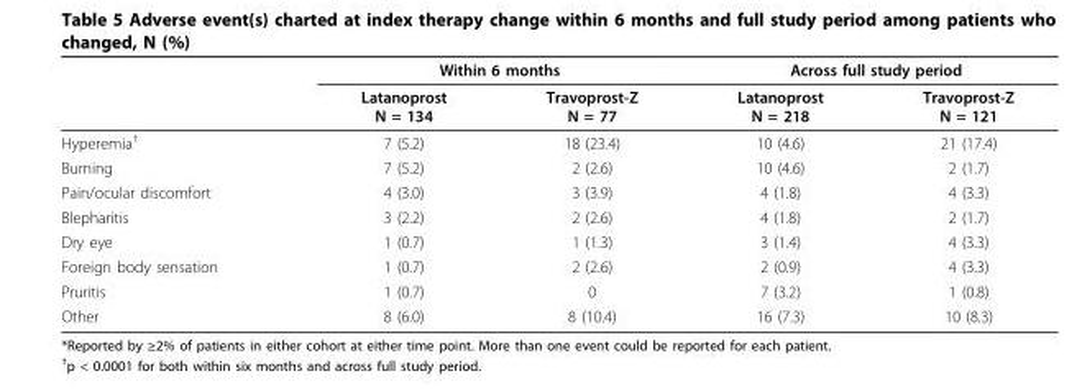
<table><thead><tr><td rowspan="2"></td><td colspan="2">Within 6 months</td><td colspan="2">Across full study period</td></tr><tr><td>Latanoprost N = 134</td><td>Travoprost-Z N = 77</td><td>Latanoprost N = 218</td><td>Travoprost-Z N = 121</td></tr></thead><tbody><tr><td>Hyperemia<sup>†</sup></td><td>7 (5.2)</td><td>18 (23.4)</td><td>10 (4.6)</td><td>21 (17.4)</td></tr><tr><td>Burning</td><td>7 (5.2)</td><td>2 (2.6)</td><td>10 (4.6)</td><td>2 (1.7)</td></tr><tr><td>Pain/ocular discomfort</td><td>4 (3.0)</td><td>3 (3.9)</td><td>4 (1.8)</td><td>4 (3.3)</td></tr><tr><td>Blepharitis</td><td>3 (2.2)</td><td>2 (2.6)</td><td>4 (1.8)</td><td>2 (1.7)</td></tr><tr><td>Dry eye</td><td>1 (0.7)</td><td>1 (1.3)</td><td>3 (1.4)</td><td>4 (3.3)</td></tr><tr><td>Foreign body sensation</td><td>1 (0.7)</td><td>2 (2.6)</td><td>2 (0.9)</td><td>4 (3.3)</td></tr><tr><td>Pruritis</td><td>1 (0.7)</td><td>0</td><td>7 (3.2)</td><td>1 (0.8)</td></tr><tr><td>Other</td><td>8 (6.0)</td><td>8 (10.4)</td><td>16 (7.3)</td><td>10 (8.3)</td></tr></tbody></table>